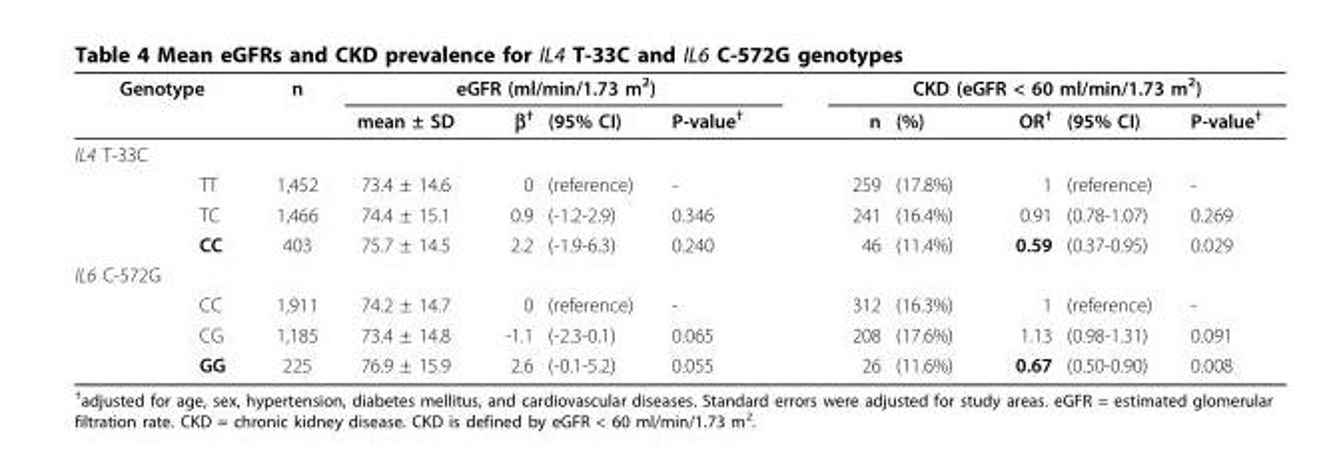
<table><thead><tr><td colspan="2">Genotype</td><td rowspan="2">n</td><td colspan="4">eGFR (ml/min/1.73 m<sup>2</sup>)</td><td colspan="5">CKD (eGFR &lt; 60 ml/min/1.73 m<sup>2</sup>)</td></tr><tr><td></td><td></td><td>mean ± SD</td><td>β<sup>†</sup></td><td>(95% CI)</td><td>P-value<sup>†</sup></td><td>n</td><td>(%)</td><td>OR<sup>†</sup></td><td>(95% CI)</td><td>P-value<sup>†</sup></td></tr></thead><tbody><tr><td colspan="12">IL4 T-33C</td></tr><tr><td></td><td>TT</td><td>1,452</td><td>73.4 ± 14.6</td><td>0</td><td>(reference)</td><td>-</td><td>259</td><td>(17.8%)</td><td>1</td><td>(reference)</td><td>-</td></tr><tr><td></td><td>TC</td><td>1,466</td><td>74.4 ± 15.1</td><td>0.9</td><td>(-1.2-2.9)</td><td>0.346</td><td>241</td><td>(16.4%)</td><td>0.91</td><td>(0.78-1.07)</td><td>0.269</td></tr><tr><td></td><td>CC</td><td>403</td><td>75.7 ± 14.5</td><td>2.2</td><td>(-1.9-6.3)</td><td>0.240</td><td>46</td><td>(11.4%)</td><td>0.59</td><td>(0.37-0.95)</td><td>0.029</td></tr><tr><td colspan="12">IL6 C-572G</td></tr><tr><td></td><td>CC</td><td>1,911</td><td>74.2 ± 14.7</td><td>0</td><td>(reference)</td><td>-</td><td>312</td><td>(16.3%)</td><td>1</td><td>(reference)</td><td>-</td></tr><tr><td></td><td>CG</td><td>1,185</td><td>73.4 ± 14.8</td><td>-1.1</td><td>(-2.3-0.1)</td><td>0.065</td><td>208</td><td>(17.6%)</td><td>1.13</td><td>(0.98-1.31)</td><td>0.091</td></tr><tr><td></td><td>GG</td><td>225</td><td>76.9 ± 15.9</td><td>2.6</td><td>(-0.1-5.2)</td><td>0.055</td><td>26</td><td>(11.6%)</td><td>0.67</td><td>(0.50-0.90)</td><td>0.008</td></tr></tbody></table>